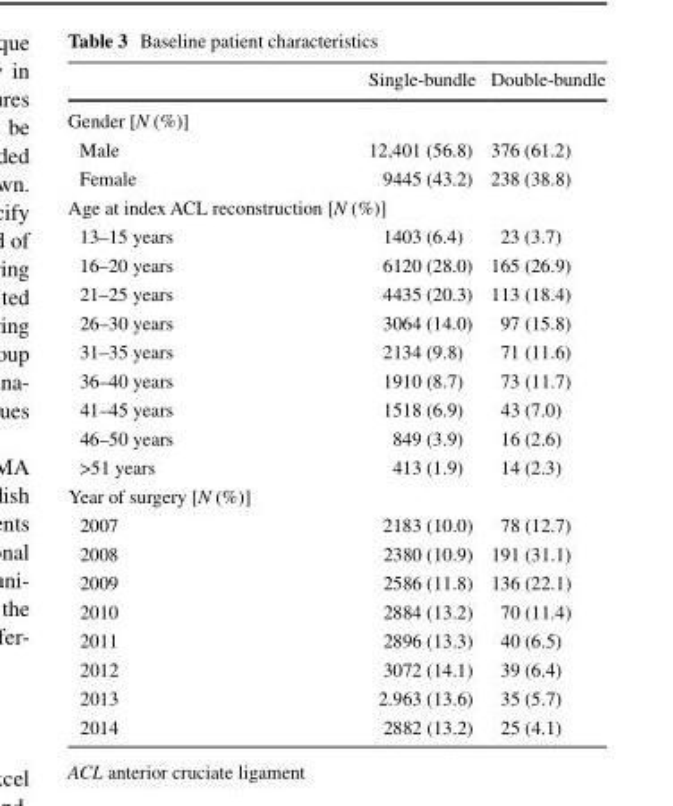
<table><thead><tr><td></td><td>Single-bundle</td><td>Double-bundle</td></tr></thead><tbody><tr><td colspan="3">Gender [N (%)]</td></tr><tr><td>Male</td><td>12,401 (56.8)</td><td>376 (61.2)</td></tr><tr><td>Female</td><td>9445 (43.2)</td><td>238 (38.8)</td></tr><tr><td colspan="3">Age at index ACL reconstruction [N (%)]</td></tr><tr><td>13–15 years</td><td>1403 (6.4)</td><td>23 (3.7)</td></tr><tr><td>16–20 years</td><td>6120 (28.0)</td><td>165 (26.9)</td></tr><tr><td>21–25 years</td><td>4435 (20.3)</td><td>113 (18.4)</td></tr><tr><td>26–30 years</td><td>3064 (14.0)</td><td>97 (15.8)</td></tr><tr><td>31–35 years</td><td>2134 (9.8)</td><td>71 (11.6)</td></tr><tr><td>36–40 years</td><td>1910 (8.7)</td><td>73 (11.7)</td></tr><tr><td>41–45 years</td><td>1518 (6.9)</td><td>43 (7.0)</td></tr><tr><td>46–50 years</td><td>849 (3.9)</td><td>16 (2.6)</td></tr><tr><td>&gt;51 years</td><td>413 (1.9)</td><td>14 (2.3)</td></tr><tr><td colspan="3">Year of surgery [N (%)]</td></tr><tr><td>2007</td><td>2183 (10.0)</td><td>78 (12.7)</td></tr><tr><td>2008</td><td>2380 (10.9)</td><td>191 (31.1)</td></tr><tr><td>2009</td><td>2586 (11.8)</td><td>136 (22.1)</td></tr><tr><td>2010</td><td>2884 (13.2)</td><td>70 (11.4)</td></tr><tr><td>2011</td><td>2896 (13.3)</td><td>40 (6.5)</td></tr><tr><td>2012</td><td>3072 (14.1)</td><td>39 (6.4)</td></tr><tr><td>2013</td><td>2.963 (13.6)</td><td>35 (5.7)</td></tr><tr><td>2014</td><td>2882 (13.2)</td><td>25 (4.1)</td></tr></tbody></table>